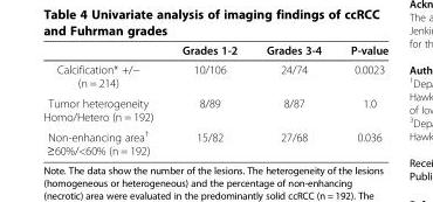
<table><thead><tr><td></td><td>Grades 1-2</td><td>Grades 3-4</td><td>P-value</td></tr></thead><tbody><tr><td>Calcification* +/− (n = 214)</td><td>10/106</td><td>24/74</td><td>0.0023</td></tr><tr><td>Tumor heterogeneity Homo/Hetero (n = 192)</td><td>8/89</td><td>8/87</td><td>1.0</td></tr><tr><td>Non-enhancing area<sup>†</sup> ≥60%/&lt;60% (n = 192)</td><td>15/82</td><td>27/68</td><td>0.036</td></tr></tbody></table>